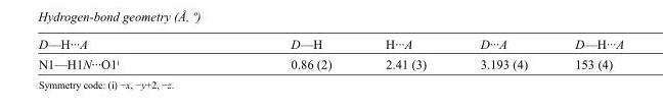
<table><tbody><tr><td>D—H···A</td><td>D—H</td><td>H···A</td><td>D···A</td><td>D—H···A</td></tr><tr><td>N1—H1N···O1<sup>i</sup></td><td>0.86 (2)</td><td>2.41 (3)</td><td>3.193 (4)</td><td>153 (4)</td></tr></tbody></table>